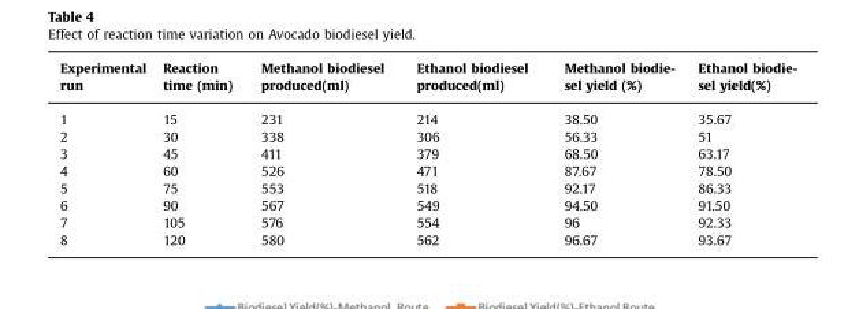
<table><thead><tr><td>Experimental run</td><td>Reaction time (min)</td><td>Methanol biodiesel produced(ml)</td><td>Ethanol biodiesel produced(ml)</td><td>Methanol biodie- sel yield (%)</td><td>Ethanol biodie- sel yield(%)</td></tr></thead><tbody><tr><td>1</td><td>15</td><td>231</td><td>214</td><td>38.50</td><td>35.67</td></tr><tr><td>2</td><td>30</td><td>338</td><td>306</td><td>56.33</td><td>51</td></tr><tr><td>3</td><td>45</td><td>411</td><td>379</td><td>68.50</td><td>63.17</td></tr><tr><td>4</td><td>60</td><td>526</td><td>471</td><td>87.67</td><td>78.50</td></tr><tr><td>5</td><td>75</td><td>553</td><td>518</td><td>92.17</td><td>86.33</td></tr><tr><td>6</td><td>90</td><td>567</td><td>549</td><td>94.50</td><td>91.50</td></tr><tr><td>7</td><td>105</td><td>576</td><td>554</td><td>96</td><td>92.33</td></tr><tr><td>8</td><td>120</td><td>580</td><td>562</td><td>96.67</td><td>93.67</td></tr></tbody></table>